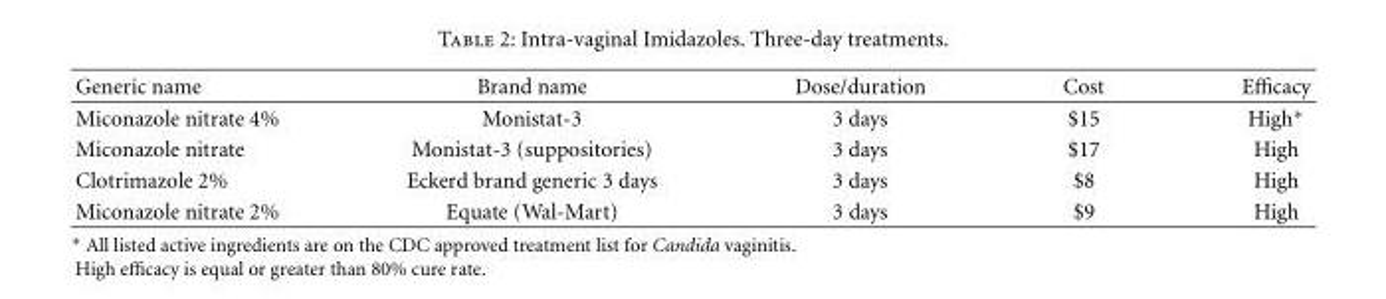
<table><tbody><tr><td>Generic name</td><td>Brand name</td><td>Dose/duration</td><td>Cost</td><td>Efficacy</td></tr><tr><td>Miconazole nitrate 4%</td><td>Monistat-3</td><td>3 days</td><td>$15</td><td>High∗</td></tr><tr><td>Miconazole nitrate</td><td>Monistat-3 (suppositories)</td><td>3 days</td><td>$17</td><td>High</td></tr><tr><td>Clotrimazole 2%</td><td>Eckerd brand generic 3 days</td><td>3 days</td><td>$8</td><td>High</td></tr><tr><td>Miconazole nitrate 2%</td><td>Equate (Wal-Mart)</td><td>3 days</td><td>$9</td><td>High</td></tr></tbody></table>